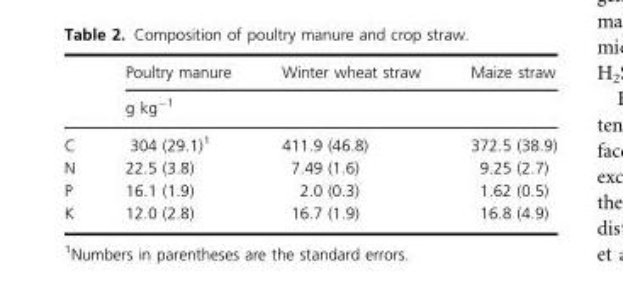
<table><thead><tr><td rowspan="2"></td><td>Poultry manure</td><td>Winter wheat straw</td><td>Maize straw</td></tr><tr><td colspan="3">g kg<sup>−1</sup></td></tr></thead><tbody><tr><td>C</td><td>304 (29.1)<sup>1</sup></td><td>411.9 (46.8)</td><td>372.5 (38.9)</td></tr><tr><td>N</td><td>22.5 (3.8)</td><td>7.49 (1.6)</td><td>9.25 (2.7)</td></tr><tr><td>P</td><td>16.1 (1.9)</td><td>2.0 (0.3)</td><td>1.62 (0.5)</td></tr><tr><td>K</td><td>12.0 (2.8)</td><td>16.7 (1.9)</td><td>16.8 (4.9)</td></tr></tbody></table>